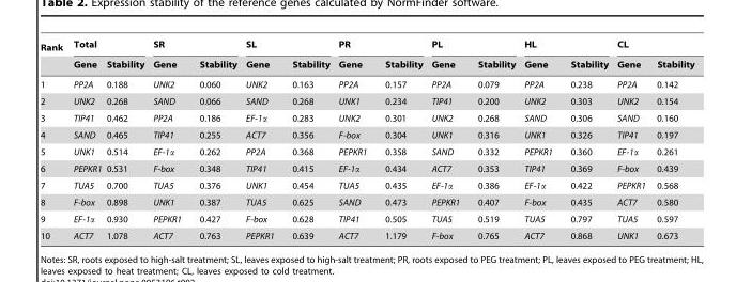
<table><thead><tr><td rowspan="2">Rank</td><td colspan="2">Total</td><td colspan="2">SR</td><td colspan="2">SL</td><td colspan="2">PR</td><td colspan="2">PL</td><td colspan="2">HL</td><td colspan="2">CL</td></tr><tr><td>Gene</td><td>Stability</td><td>Gene</td><td>Stability</td><td>Gene</td><td>Stability</td><td>Gene</td><td>Stability</td><td>Gene</td><td>Stability</td><td>Gene</td><td>Stability</td><td>Gene</td><td>Stability</td></tr></thead><tbody><tr><td>1</td><td>PP2A</td><td>0.188</td><td>UNK2</td><td>0.060</td><td>UNK2</td><td>0.163</td><td>PP2A</td><td>0.157</td><td>PP2A</td><td>0.079</td><td>PP2A</td><td>0.238</td><td>PP2A</td><td>0.142</td></tr><tr><td>2</td><td>UNK2</td><td>0.268</td><td>SAND</td><td>0.066</td><td>SAND</td><td>0.268</td><td>UNK1</td><td>0.234</td><td>TIP41</td><td>0.200</td><td>UNK2</td><td>0.303</td><td>UNK2</td><td>0.154</td></tr><tr><td>3</td><td>TIP41</td><td>0.462</td><td>PP2A</td><td>0.186</td><td>EF-1α</td><td>0.283</td><td>UNK2</td><td>0.301</td><td>UNK2</td><td>0.268</td><td>SAND</td><td>0.306</td><td>SAND</td><td>0.160</td></tr><tr><td>4</td><td>SAND</td><td>0.465</td><td>TIP41</td><td>0.255</td><td>ACT7</td><td>0.356</td><td>F-box</td><td>0.304</td><td>UNK1</td><td>0.316</td><td>UNK1</td><td>0.326</td><td>TIP41</td><td>0.197</td></tr><tr><td>5</td><td>UNK1</td><td>0.514</td><td>EF-1α</td><td>0.262</td><td>PP2A</td><td>0.368</td><td>PEPKR1</td><td>0.358</td><td>SAND</td><td>0.332</td><td>PEPKR1</td><td>0.360</td><td>EF-1α</td><td>0.261</td></tr><tr><td>6</td><td>PEPKR1</td><td>0.531</td><td>F-box</td><td>0.348</td><td>TIP41</td><td>0.415</td><td>EF-1α</td><td>0.434</td><td>ACT7</td><td>0.353</td><td>TIP41</td><td>0.369</td><td>F-box</td><td>0.439</td></tr><tr><td>7</td><td>TUA5</td><td>0.700</td><td>TUA5</td><td>0.376</td><td>UNK1</td><td>0.454</td><td>TUA5</td><td>0.435</td><td>EF-1α</td><td>0.386</td><td>EF-1α</td><td>0.422</td><td>PEPKR1</td><td>0.568</td></tr><tr><td>8</td><td>F-box</td><td>0.898</td><td>UNK1</td><td>0.387</td><td>TUA5</td><td>0.625</td><td>SAND</td><td>0.473</td><td>PEPKR1</td><td>0.407</td><td>F-box</td><td>0.435</td><td>ACT7</td><td>0.580</td></tr><tr><td>9</td><td>EF-1α</td><td>0.930</td><td>PEPKR1</td><td>0.427</td><td>F-box</td><td>0.628</td><td>TIP41</td><td>0.505</td><td>TUA5</td><td>0.519</td><td>TUA5</td><td>0.797</td><td>TUA5</td><td>0.597</td></tr><tr><td>10</td><td>ACT7</td><td>1.078</td><td>ACT7</td><td>0.763</td><td>PEPKR1</td><td>0.639</td><td>ACT7</td><td>1.179</td><td>F-box</td><td>0.765</td><td>ACT7</td><td>0.868</td><td>UNK1</td><td>0.673</td></tr></tbody></table>